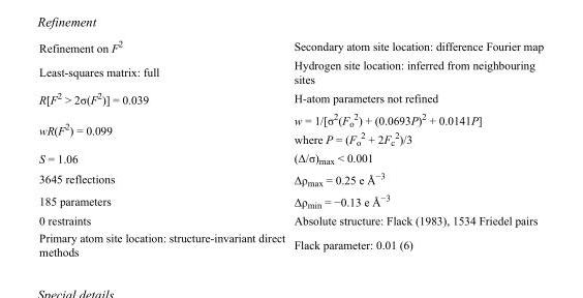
<table><tbody><tr><td>Refinement on F<sup>2</sup></td><td>Secondary atom site location: difference Fourier map</td></tr><tr><td>Least-squares matrix: full</td><td>Hydrogen site location: inferred from neighbouring sites</td></tr><tr><td>R[F<sup>2</sup> &gt; 2σ(F<sup>2</sup>)] = 0.039</td><td>H-atom parameters not refined</td></tr><tr><td>wR(F<sup>2</sup>) = 0.099</td><td>w = 1/[σ<sup>2</sup>(F<sub>o</sub> <sup>2</sup>) + (0.0693P)<sup>2</sup> + 0.0141P] where P = (F<sub>o</sub> <sup>2</sup> + 2F<sub>c</sub> <sup>2</sup>)/3</td></tr><tr><td>S = 1.06</td><td>(Δ/σ)<sub>max</sub> &lt; 0.001</td></tr><tr><td>3645 reflections</td><td>Δρ<sub>max</sub> = 0.25 e Å<sup>−3</sup></td></tr><tr><td>185 parameters</td><td>Δρ<sub>min</sub> = −0.13 e Å<sup>−3</sup></td></tr><tr><td>0 restraints</td><td>Absolute structure: Flack (1983), 1534 Friedel pairs</td></tr><tr><td>Primary atom site location: structure-invariant direct methods</td><td>Flack parameter: 0.01 (6)</td></tr></tbody></table>